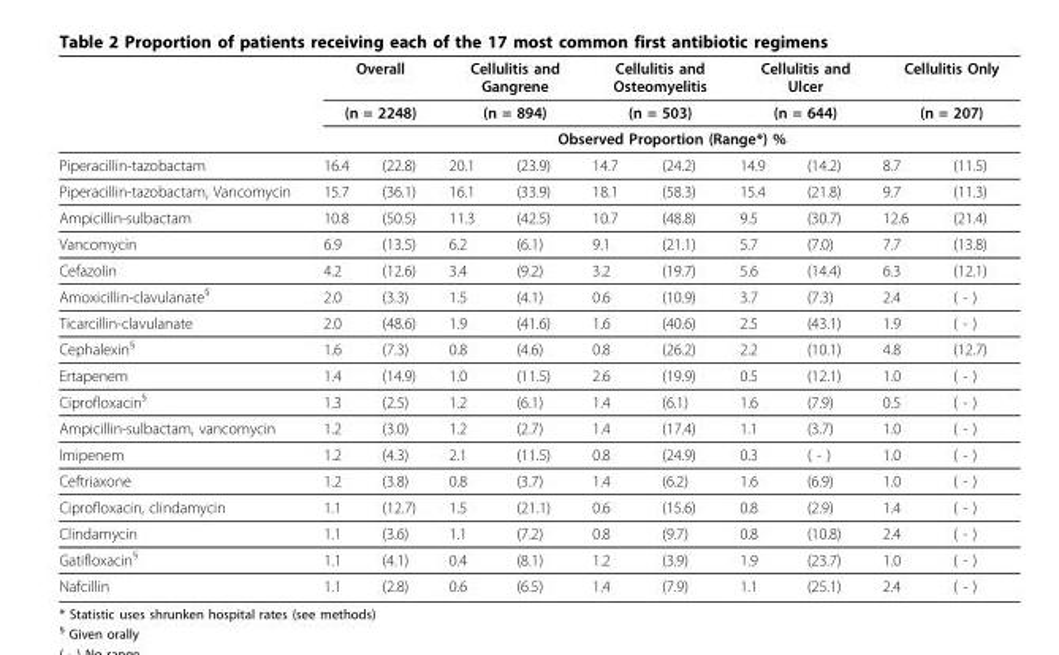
<table><thead><tr><td rowspan="4">Piperacillin-tazobactam</td><td rowspan="2" colspan="2">Overall (n = 2248)</td><td rowspan="2" colspan="2">Cellulitis and Gangrene (n = 894)</td><td rowspan="2" colspan="2">Cellulitis and Osteomyelitis (n = 503)</td><td rowspan="2" colspan="2">Cellulitis and Ulcer (n = 644)</td><td rowspan="2" colspan="2">Cellulitis Only (n = 207)</td></tr><tr></tr><tr><td colspan="10">Observed Proportion (Range*) %</td></tr><tr><td>16.4</td><td>(22.8)</td><td>20.1</td><td>(23.9)</td><td>14.7</td><td>(24.2)</td><td>14.9</td><td>(14.2)</td><td>8.7</td><td>(11.5)</td></tr></thead><tbody><tr><td>Piperacillin-tazobactam, Vancomycin</td><td>15.7</td><td>(36.1)</td><td>16.1</td><td>(33.9)</td><td>18.1</td><td>(58.3)</td><td>15.4</td><td>(21.8)</td><td>9.7</td><td>(11.3)</td></tr><tr><td>Ampicillin-sulbactam</td><td>10.8</td><td>(50.5)</td><td>11.3</td><td>(42.5)</td><td>10.7</td><td>(48.8)</td><td>9.5</td><td>(30.7)</td><td>12.6</td><td>(21.4)</td></tr><tr><td>Vancomycin</td><td>6.9</td><td>(13.5)</td><td>6.2</td><td>(6.1)</td><td>9.1</td><td>(21.1)</td><td>5.7</td><td>(7.0)</td><td>7.7</td><td>(13.8)</td></tr><tr><td>Cefazolin</td><td>4.2</td><td>(12.6)</td><td>3.4</td><td>(9.2)</td><td>3.2</td><td>(19.7)</td><td>5.6</td><td>(14.4)</td><td>6.3</td><td>(12.1)</td></tr><tr><td>Amoxicillin-clavulanate<sup>§</sup></td><td>2.0</td><td>(3.3)</td><td>1.5</td><td>(4.1)</td><td>0.6</td><td>(10.9)</td><td>3.7</td><td>(7.3)</td><td>2.4</td><td>( - )</td></tr><tr><td>Ticarcillin-clavulanate</td><td>2.0</td><td>(48.6)</td><td>1.9</td><td>(41.6)</td><td>1.6</td><td>(40.6)</td><td>2.5</td><td>(43.1)</td><td>1.9</td><td>( - )</td></tr><tr><td>Cephalexin<sup>§</sup></td><td>1.6</td><td>(7.3)</td><td>0.8</td><td>(4.6)</td><td>0.8</td><td>(26.2)</td><td>2.2</td><td>(10.1)</td><td>4.8</td><td>(12.7)</td></tr><tr><td>Ertapenem</td><td>1.4</td><td>(14.9)</td><td>1.0</td><td>(11.5)</td><td>2.6</td><td>(19.9)</td><td>0.5</td><td>(12.1)</td><td>1.0</td><td>( - )</td></tr><tr><td>Ciprofloxacin<sup>§</sup></td><td>1.3</td><td>(2.5)</td><td>1.2</td><td>(6.1)</td><td>1.4</td><td>(6.1)</td><td>1.6</td><td>(7.9)</td><td>0.5</td><td>( - )</td></tr><tr><td>Ampicillin-sulbactam, vancomycin</td><td>1.2</td><td>(3.0)</td><td>1.2</td><td>(2.7)</td><td>1.4</td><td>(17.4)</td><td>1.1</td><td>(3.7)</td><td>1.0</td><td>( - )</td></tr><tr><td>Imipenem</td><td>1.2</td><td>(4.3)</td><td>2.1</td><td>(11.5)</td><td>0.8</td><td>(24.9)</td><td>0.3</td><td>( - )</td><td>1.0</td><td>( - )</td></tr><tr><td>Ceftriaxone</td><td>1.2</td><td>(3.8)</td><td>0.8</td><td>(3.7)</td><td>1.4</td><td>(6.2)</td><td>1.6</td><td>(6.9)</td><td>1.0</td><td>( - )</td></tr><tr><td>Ciprofloxacin, clindamycin</td><td>1.1</td><td>(12.7)</td><td>1.5</td><td>(21.1)</td><td>0.6</td><td>(15.6)</td><td>0.8</td><td>(2.9)</td><td>1.4</td><td>( - )</td></tr><tr><td>Clindamycin</td><td>1.1</td><td>(3.6)</td><td>1.1</td><td>(7.2)</td><td>0.8</td><td>(9.7)</td><td>0.8</td><td>(10.8)</td><td>2.4</td><td>( - )</td></tr><tr><td>Gatifloxacin<sup>§</sup></td><td>1.1</td><td>(4.1)</td><td>0.4</td><td>(8.1)</td><td>1.2</td><td>(3.9)</td><td>1.9</td><td>(23.7)</td><td>1.0</td><td>( - )</td></tr><tr><td>Nafcillin</td><td>1.1</td><td>(2.8)</td><td>0.6</td><td>(6.5)</td><td>1.4</td><td>(7.9)</td><td>1.1</td><td>(25.1)</td><td>2.4</td><td>( - )</td></tr></tbody></table>